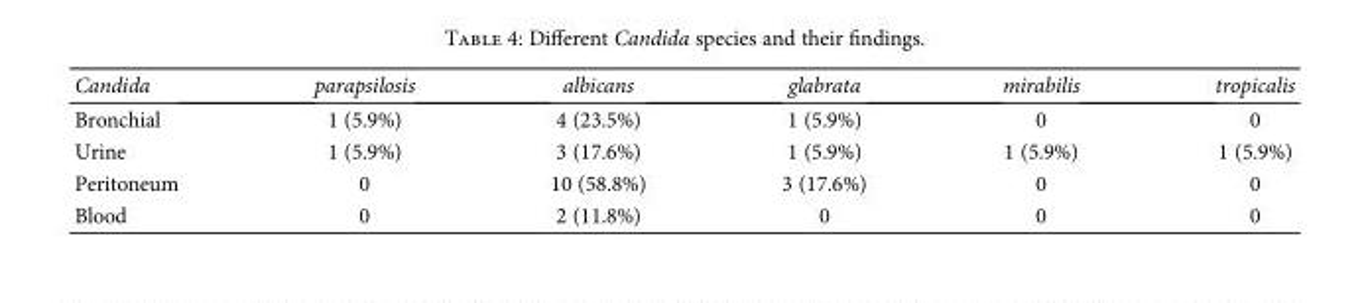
<table><thead><tr><td>Candida</td><td>parapsilosis</td><td>albicans</td><td>glabrata</td><td>mirabilis</td><td>tropicalis</td></tr></thead><tbody><tr><td>Bronchial</td><td>1 (5.9%)</td><td>4 (23.5%)</td><td>1 (5.9%)</td><td>0</td><td>0</td></tr><tr><td>Urine</td><td>1 (5.9%)</td><td>3 (17.6%)</td><td>1 (5.9%)</td><td>1 (5.9%)</td><td>1 (5.9%)</td></tr><tr><td>Peritoneum</td><td>0</td><td>10 (58.8%)</td><td>3 (17.6%)</td><td>0</td><td>0</td></tr><tr><td>Blood</td><td>0</td><td>2 (11.8%)</td><td>0</td><td>0</td><td>0</td></tr></tbody></table>